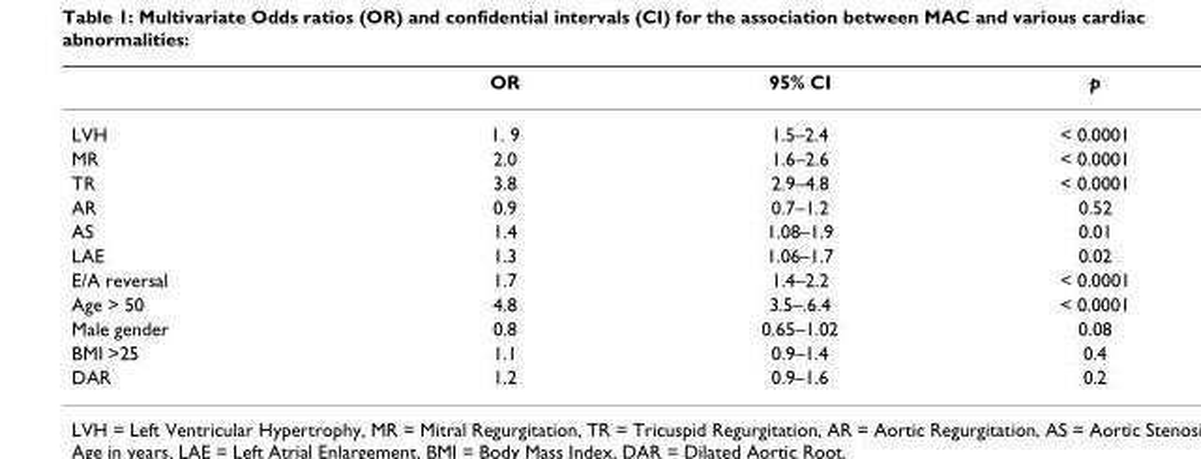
<table><thead><tr><td></td><td>OR</td><td>95% CI</td><td>p</td></tr></thead><tbody><tr><td>LVH</td><td>1. 9</td><td>1.5–2.4</td><td>&lt; 0.0001</td></tr><tr><td>MR</td><td>2.0</td><td>1.6–2.6</td><td>&lt; 0.0001</td></tr><tr><td>TR</td><td>3.8</td><td>2.9–4.8</td><td>&lt; 0.0001</td></tr><tr><td>AR</td><td>0.9</td><td>0.7–1.2</td><td>0.52</td></tr><tr><td>AS</td><td>1.4</td><td>1.08–1.9</td><td>0.01</td></tr><tr><td>LAE</td><td>1.3</td><td>1.06–1.7</td><td>0.02</td></tr><tr><td>E/A reversal</td><td>1.7</td><td>1.4–2.2</td><td>&lt; 0.0001</td></tr><tr><td>Age &gt; 50</td><td>4.8</td><td>3.5–.6.4</td><td>&lt; 0.0001</td></tr><tr><td>Male gender</td><td>0.8</td><td>0.65–1.02</td><td>0.08</td></tr><tr><td>BMI &gt;25</td><td>1.1</td><td>0.9–1.4</td><td>0.4</td></tr><tr><td>DAR</td><td>1.2</td><td>0.9–1.6</td><td>0.2</td></tr></tbody></table>